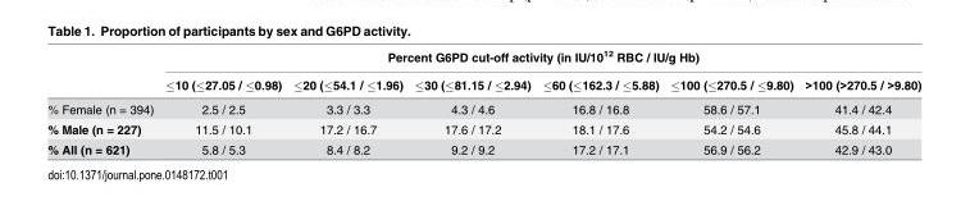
<table><thead><tr><td rowspan="2"></td><td colspan="6">Percent G6PD cut-off activity (in IU/10<sup>12</sup> RBC / IU/g Hb)</td></tr><tr><td>≤10 (≤27.05 / ≤0.98)</td><td>≤20 (≤54.1 / ≤1.96)</td><td>≤30 (≤81.15 / ≤2.94)</td><td>≤60 (≤162.3 / ≤5.88)</td><td>≤100 (≤270.5 / ≤9.80)</td><td>&gt;100 (&gt;270.5 / &gt;9.80)</td></tr></thead><tbody><tr><td>% Female (n = 394)</td><td>2.5 / 2.5</td><td>3.3 / 3.3</td><td>4.3 / 4.6</td><td>16.8 / 16.8</td><td>58.6 / 57.1</td><td>41.4 / 42.4</td></tr><tr><td>% Male (n = 227)</td><td>11.5 / 10.1</td><td>17.2 / 16.7</td><td>17.6 / 17.2</td><td>18.1 / 17.6</td><td>54.2 / 54.6</td><td>45.8 / 44.1</td></tr><tr><td>% All (n = 621)</td><td>5.8 / 5.3</td><td>8.4 / 8.2</td><td>9.2 / 9.2</td><td>17.2 / 17.1</td><td>56.9 / 56.2</td><td>42.9 / 43.0</td></tr></tbody></table>